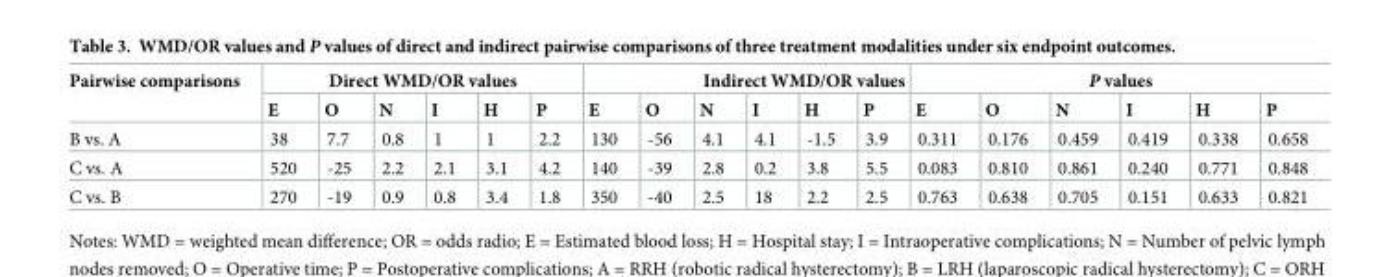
<table><thead><tr><td rowspan="2">Pairwise comparisons</td><td colspan="6">Direct WMD/OR values</td><td colspan="6">Indirect WMD/OR values</td><td colspan="6">P values</td></tr><tr><td>E</td><td>O</td><td>N</td><td>I</td><td>H</td><td>P</td><td>E</td><td>O</td><td>N</td><td>I</td><td>H</td><td>P</td><td>E</td><td>O</td><td>N</td><td>I</td><td>H</td><td>P</td></tr></thead><tbody><tr><td>B vs. A</td><td>38</td><td>7.7</td><td>0.8</td><td>1</td><td>1</td><td>2.2</td><td>130</td><td>-56</td><td>4.1</td><td>4.1</td><td>-1.5</td><td>3.9</td><td>0.311</td><td>0.176</td><td>0.459</td><td>0.419</td><td>0.338</td><td>0.658</td></tr><tr><td>C vs. A</td><td>520</td><td>-25</td><td>2.2</td><td>2.1</td><td>3.1</td><td>4.2</td><td>140</td><td>-39</td><td>2.8</td><td>0.2</td><td>3.8</td><td>5.5</td><td>0.083</td><td>0.810</td><td>0.861</td><td>0.240</td><td>0.771</td><td>0.848</td></tr><tr><td>C vs. B</td><td>270</td><td>-19</td><td>0.9</td><td>0.8</td><td>3.4</td><td>1.8</td><td>350</td><td>-40</td><td>2.5</td><td>18</td><td>2.2</td><td>2.5</td><td>0.763</td><td>0.638</td><td>0.705</td><td>0.151</td><td>0.633</td><td>0.821</td></tr></tbody></table>